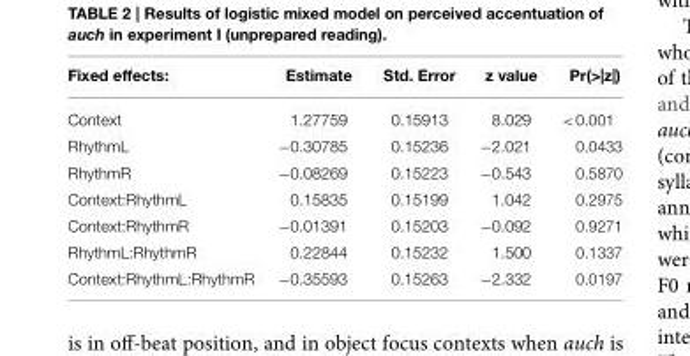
<table><thead><tr><td>Fixed effects:</td><td>Estimate</td><td>Std. Error</td><td>z value</td><td>Pr(&gt;|z|)</td></tr></thead><tbody><tr><td>Context</td><td>1.27759</td><td>0.15913</td><td>8.029</td><td>&lt;0.001</td></tr><tr><td>RhythmL</td><td>−0.30785</td><td>0.15236</td><td>−2.021</td><td>0.0433</td></tr><tr><td>RhythmR</td><td>−0.08269</td><td>0.15223</td><td>−0.543</td><td>0.5870</td></tr><tr><td>Context:RhythmL</td><td>0.15835</td><td>0.15199</td><td>1.042</td><td>0.2975</td></tr><tr><td>Context:RhythmR</td><td>−0.01391</td><td>0.15203</td><td>−0.092</td><td>0.9271</td></tr><tr><td>RhythmL:RhythmR</td><td>0.22844</td><td>0.15232</td><td>1.500</td><td>0.1337</td></tr><tr><td>Context:RhythmL:RhythmR</td><td>−0.35593</td><td>0.15263</td><td>−2.332</td><td>0.0197</td></tr></tbody></table>